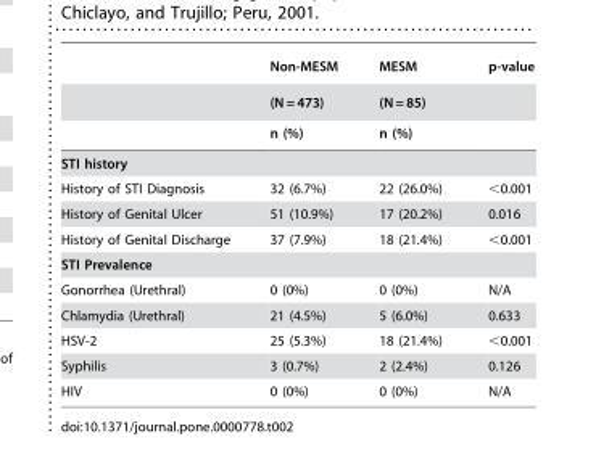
<table><thead><tr><td rowspan="3"></td><td rowspan="3">Non-MESM (N = 473) n (%)</td><td rowspan="3">MESM (N = 85) n (%)</td><td rowspan="3">p-value</td></tr><tr></tr><tr></tr></thead><tbody><tr><td colspan="4">STI history</td></tr><tr><td>History of STI Diagnosis</td><td>32 (6.7%)</td><td>22 (26.0%)</td><td>&lt;0.001</td></tr><tr><td>History of Genital Ulcer</td><td>51 (10.9%)</td><td>17 (20.2%)</td><td>0.016</td></tr><tr><td>History of Genital Discharge</td><td>37 (7.9%)</td><td>18 (21.4%)</td><td>&lt;0.001</td></tr><tr><td colspan="4">STI Prevalence</td></tr><tr><td>Gonorrhea (Urethral)</td><td>0 (0%)</td><td>0 (0%)</td><td>N/A</td></tr><tr><td>Chlamydia (Urethral)</td><td>21 (4.5%)</td><td>5 (6.0%)</td><td>0.633</td></tr><tr><td>HSV-2</td><td>25 (5.3%)</td><td>18 (21.4%)</td><td>&lt;0.001</td></tr><tr><td>Syphilis</td><td>3 (0.7%)</td><td>2 (2.4%)</td><td>0.126</td></tr><tr><td>HIV</td><td>0 (0%)</td><td>0 (0%)</td><td>N/A</td></tr></tbody></table>